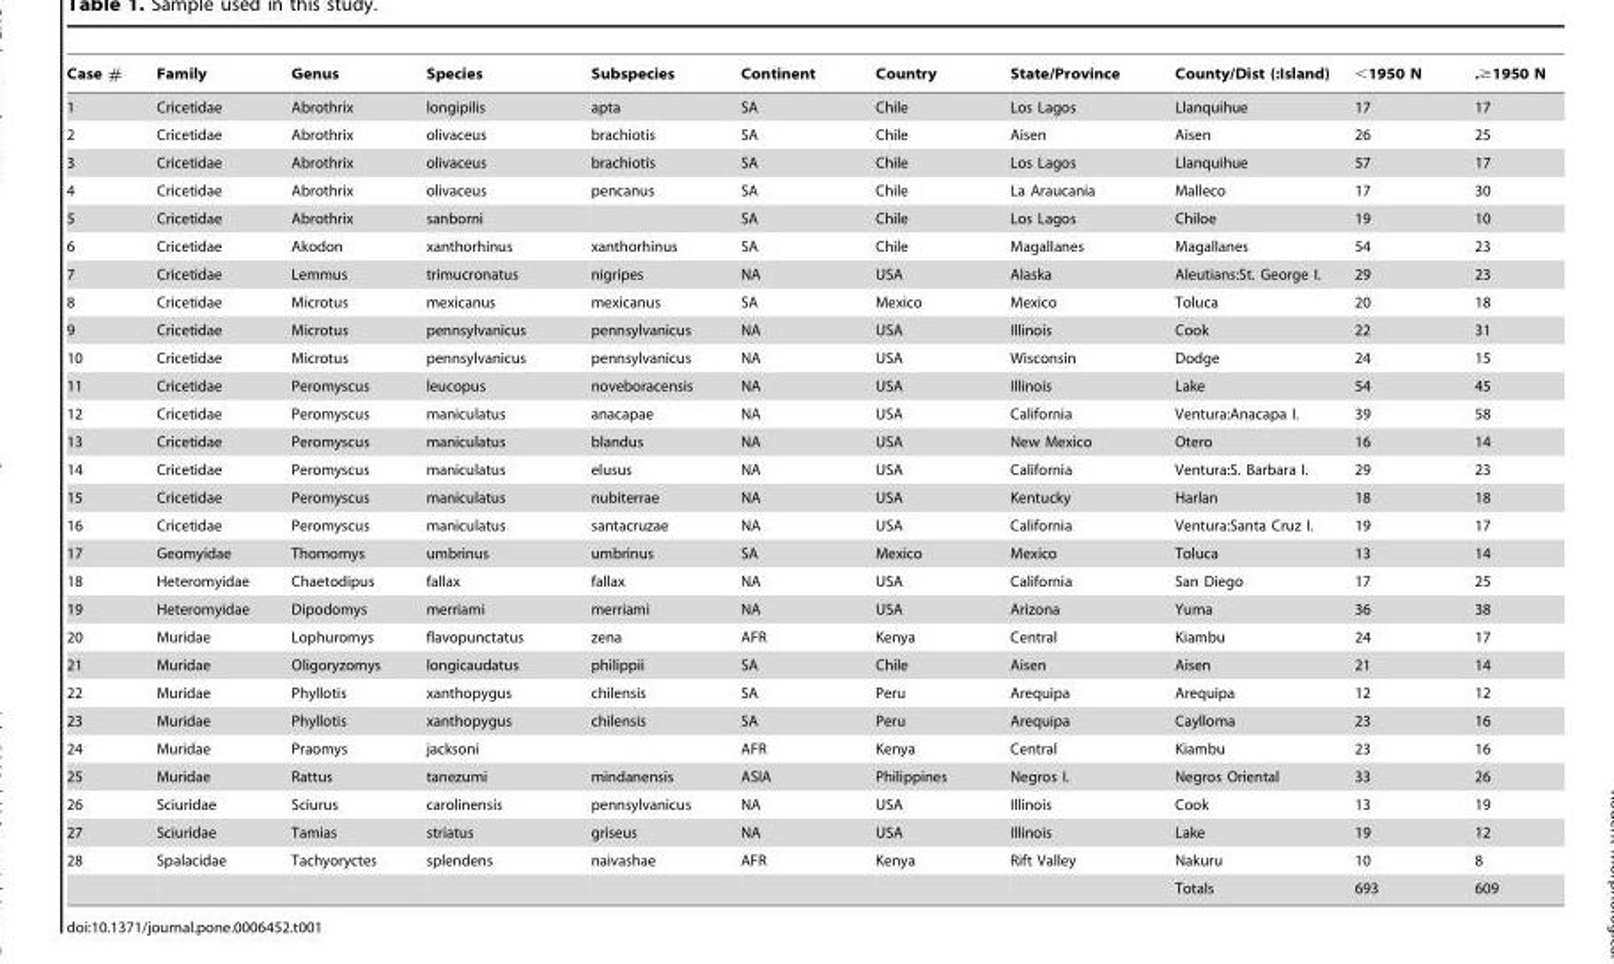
<table><thead><tr><td>Case #</td><td>Family</td><td>Genus</td><td>Species</td><td>Subspecies</td><td>Continent</td><td>Country</td><td>State/Province</td><td>County/Dist (:Island)</td><td>&lt;1950 N</td><td>.≥1950 N</td></tr></thead><tbody><tr><td>1</td><td>Cricetidae</td><td>Abrothrix</td><td>longipilis</td><td>apta</td><td>SA</td><td>Chile</td><td>Los Lagos</td><td>Llanquihue</td><td>17</td><td>17</td></tr><tr><td>2</td><td>Cricetidae</td><td>Abrothrix</td><td>olivaceus</td><td>brachiotis</td><td>SA</td><td>Chile</td><td>Aisen</td><td>Aisen</td><td>26</td><td>25</td></tr><tr><td>3</td><td>Cricetidae</td><td>Abrothrix</td><td>olivaceus</td><td>brachiotis</td><td>SA</td><td>Chile</td><td>Los Lagos</td><td>Llanquihue</td><td>57</td><td>17</td></tr><tr><td>4</td><td>Cricetidae</td><td>Abrothrix</td><td>olivaceus</td><td>pencanus</td><td>SA</td><td>Chile</td><td>La Araucania</td><td>Malleco</td><td>17</td><td>30</td></tr><tr><td>5</td><td>Cricetidae</td><td>Abrothrix</td><td>sanborni</td><td></td><td>SA</td><td>Chile</td><td>Los Lagos</td><td>Chiloe</td><td>19</td><td>10</td></tr><tr><td>6</td><td>Cricetidae</td><td>Akodon</td><td>xanthorhinus</td><td>xanthorhinus</td><td>SA</td><td>Chile</td><td>Magallanes</td><td>Magallanes</td><td>54</td><td>23</td></tr><tr><td>7</td><td>Cricetidae</td><td>Lemmus</td><td>trimucronatus</td><td>nigripes</td><td>NA</td><td>USA</td><td>Alaska</td><td>Aleutians:St. George I.</td><td>29</td><td>23</td></tr><tr><td>8</td><td>Cricetidae</td><td>Microtus</td><td>mexicanus</td><td>mexicanus</td><td>SA</td><td>Mexico</td><td>Mexico</td><td>Toluca</td><td>20</td><td>18</td></tr><tr><td>9</td><td>Cricetidae</td><td>Microtus</td><td>pennsylvanicus</td><td>pennsylvanicus</td><td>NA</td><td>USA</td><td>Illinois</td><td>Cook</td><td>22</td><td>31</td></tr><tr><td>10</td><td>Cricetidae</td><td>Microtus</td><td>pennsylvanicus</td><td>pennsylvanicus</td><td>NA</td><td>USA</td><td>Wisconsin</td><td>Dodge</td><td>24</td><td>15</td></tr><tr><td>11</td><td>Cricetidae</td><td>Peromyscus</td><td>leucopus</td><td>noveboracensis</td><td>NA</td><td>USA</td><td>Illinois</td><td>Lake</td><td>54</td><td>45</td></tr><tr><td>12</td><td>Cricetidae</td><td>Peromyscus</td><td>maniculatus</td><td>anacapae</td><td>NA</td><td>USA</td><td>California</td><td>Ventura:Anacapa I.</td><td>39</td><td>58</td></tr><tr><td>13</td><td>Cricetidae</td><td>Peromyscus</td><td>maniculatus</td><td>blandus</td><td>NA</td><td>USA</td><td>New Mexico</td><td>Otero</td><td>16</td><td>14</td></tr><tr><td>14</td><td>Cricetidae</td><td>Peromyscus</td><td>maniculatus</td><td>elusus</td><td>NA</td><td>USA</td><td>California</td><td>Ventura:S. Barbara I.</td><td>29</td><td>23</td></tr><tr><td>15</td><td>Cricetidae</td><td>Peromyscus</td><td>maniculatus</td><td>nubiterrae</td><td>NA</td><td>USA</td><td>Kentucky</td><td>Harlan</td><td>18</td><td>18</td></tr><tr><td>16</td><td>Cricetidae</td><td>Peromyscus</td><td>maniculatus</td><td>santacruzae</td><td>NA</td><td>USA</td><td>California</td><td>Ventura:Santa Cruz I.</td><td>19</td><td>17</td></tr><tr><td>17</td><td>Geomyidae</td><td>Thomomys</td><td>umbrinus</td><td>umbrinus</td><td>SA</td><td>Mexico</td><td>Mexico</td><td>Toluca</td><td>13</td><td>14</td></tr><tr><td>18</td><td>Heteromyidae</td><td>Chaetodipus</td><td>fallax</td><td>fallax</td><td>NA</td><td>USA</td><td>California</td><td>San Diego</td><td>17</td><td>25</td></tr><tr><td>19</td><td>Heteromyidae</td><td>Dipodomys</td><td>merriami</td><td>merriami</td><td>NA</td><td>USA</td><td>Arizona</td><td>Yuma</td><td>36</td><td>38</td></tr><tr><td>20</td><td>Muridae</td><td>Lophuromys</td><td>flavopunctatus</td><td>zena</td><td>AFR</td><td>Kenya</td><td>Central</td><td>Kiambu</td><td>24</td><td>17</td></tr><tr><td>21</td><td>Muridae</td><td>Oligoryzomys</td><td>longicaudatus</td><td>philippii</td><td>SA</td><td>Chile</td><td>Aisen</td><td>Aisen</td><td>21</td><td>14</td></tr><tr><td>22</td><td>Muridae</td><td>Phyllotis</td><td>xanthopygus</td><td>chilensis</td><td>SA</td><td>Peru</td><td>Arequipa</td><td>Arequipa</td><td>12</td><td>12</td></tr><tr><td>23</td><td>Muridae</td><td>Phyllotis</td><td>xanthopygus</td><td>chilensis</td><td>SA</td><td>Peru</td><td>Arequipa</td><td>Caylloma</td><td>23</td><td>16</td></tr><tr><td>24</td><td>Muridae</td><td>Praomys</td><td>jacksoni</td><td></td><td>AFR</td><td>Kenya</td><td>Central</td><td>Kiambu</td><td>23</td><td>16</td></tr><tr><td>25</td><td>Muridae</td><td>Rattus</td><td>tanezumi</td><td>mindanensis</td><td>ASIA</td><td>Philippines</td><td>Negros I.</td><td>Negros Oriental</td><td>33</td><td>26</td></tr><tr><td>26</td><td>Sciuridae</td><td>Sciurus</td><td>carolinensis</td><td>pennsylvanicus</td><td>NA</td><td>USA</td><td>Illinois</td><td>Cook</td><td>13</td><td>19</td></tr><tr><td>27</td><td>Sciuridae</td><td>Tamias</td><td>striatus</td><td>griseus</td><td>NA</td><td>USA</td><td>Illinois</td><td>Lake</td><td>19</td><td>12</td></tr><tr><td rowspan="2">28</td><td>Spalacidae</td><td>Tachyoryctes</td><td>splendens</td><td>naivashae</td><td>AFR</td><td>Kenya</td><td>Rift Valley</td><td>Nakuru</td><td>10</td><td>8</td></tr><tr><td></td><td></td><td></td><td></td><td></td><td></td><td></td><td>Totals</td><td>693</td><td>609</td></tr></tbody></table>